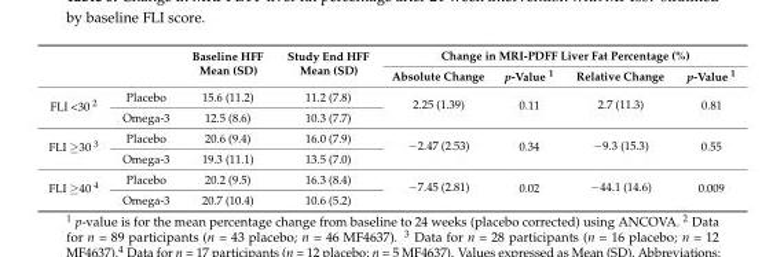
<table><thead><tr><td rowspan="2"></td><td rowspan="2"></td><td rowspan="2">Baseline HFF Mean (SD)</td><td rowspan="2">Study End HFF Mean (SD)</td><td colspan="4">Change in MRI-PDFF Liver Fat Percentage (%)</td></tr><tr><td>Absolute Change</td><td>p-Value <sup>1</sup></td><td>Relative Change</td><td>p-Value <sup>1</sup></td></tr></thead><tbody><tr><td rowspan="2">FLI &lt;30 <sup>2</sup></td><td>Placebo</td><td>15.6 (11.2)</td><td>11.2 (7.8)</td><td rowspan="2">2.25 (1.39)</td><td rowspan="2">0.11</td><td rowspan="2">2.7 (11.3)</td><td rowspan="2">0.81</td></tr><tr><td>Omega-3</td><td>12.5 (8.6)</td><td>10.3 (7.7)</td></tr><tr><td rowspan="2">FLI ≥30 <sup>3</sup></td><td>Placebo</td><td>20.6 (9.4)</td><td>16.0 (7.9)</td><td rowspan="2">−2.47 (2.53)</td><td rowspan="2">0.34</td><td rowspan="2">−9.3 (15.3)</td><td rowspan="2">0.55</td></tr><tr><td>Omega-3</td><td>19.3 (11.1)</td><td>13.5 (7.0)</td></tr><tr><td rowspan="2">FLI ≥40 <sup>4</sup></td><td>Placebo</td><td>20.2 (9.5)</td><td>16.3 (8.4)</td><td rowspan="2">−7.45 (2.81)</td><td rowspan="2">0.02</td><td rowspan="2">−44.1 (14.6)</td><td rowspan="2">0.009</td></tr><tr><td>Omega-3</td><td>20.7 (10.4)</td><td>10.6 (5.2)</td></tr></tbody></table>